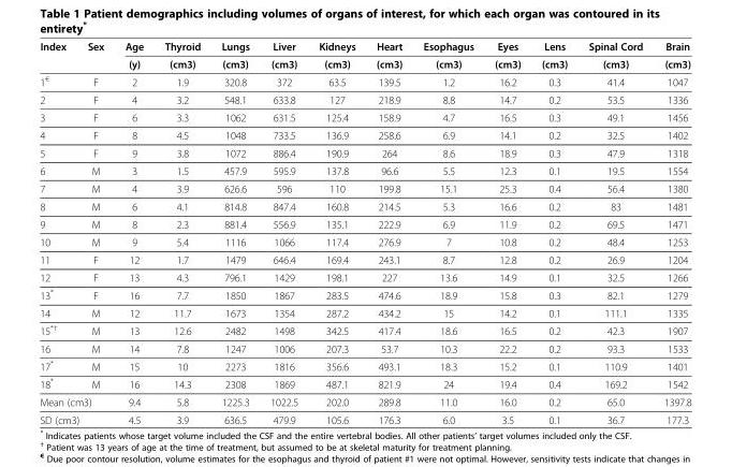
<table><thead><tr><td rowspan="2">Index</td><td rowspan="2">Sex</td><td rowspan="2">Age (y)</td><td rowspan="2">Thyroid (cm3)</td><td rowspan="2">Lungs (cm3)</td><td rowspan="2">Liver (cm3)</td><td rowspan="2">Kidneys (cm3)</td><td rowspan="2">Heart (cm3)</td><td rowspan="2">Esophagus (cm3)</td><td rowspan="2">Eyes (cm3)</td><td rowspan="2">Lens (cm3)</td><td rowspan="2">Spinal Cord (cm3)</td><td rowspan="2">Brain (cm3)</td></tr><tr></tr></thead><tbody><tr><td>1<sup>€</sup></td><td>F</td><td>2</td><td>1.9</td><td>320.8</td><td>372</td><td>63.5</td><td>139.5</td><td>1.2</td><td>16.2</td><td>0.3</td><td>41.4</td><td>1047</td></tr><tr><td>2</td><td>F</td><td>4</td><td>3.2</td><td>548.1</td><td>633.8</td><td>127</td><td>218.9</td><td>8.8</td><td>14.7</td><td>0.2</td><td>53.5</td><td>1336</td></tr><tr><td>3</td><td>F</td><td>6</td><td>3.3</td><td>1062</td><td>631.5</td><td>125.4</td><td>158.9</td><td>4.7</td><td>16.5</td><td>0.3</td><td>49.1</td><td>1456</td></tr><tr><td>4</td><td>F</td><td>8</td><td>4.5</td><td>1048</td><td>733.5</td><td>136.9</td><td>258.6</td><td>6.9</td><td>14.1</td><td>0.2</td><td>32.5</td><td>1402</td></tr><tr><td>5</td><td>F</td><td>9</td><td>3.8</td><td>1072</td><td>886.4</td><td>190.9</td><td>264</td><td>8.6</td><td>18.9</td><td>0.3</td><td>47.9</td><td>1318</td></tr><tr><td>6</td><td>M</td><td>3</td><td>1.5</td><td>457.9</td><td>595.9</td><td>137.8</td><td>96.6</td><td>5.5</td><td>12.3</td><td>0.1</td><td>19.5</td><td>1554</td></tr><tr><td>7</td><td>M</td><td>4</td><td>3.9</td><td>626.6</td><td>596</td><td>110</td><td>199.8</td><td>15.1</td><td>25.3</td><td>0.4</td><td>56.4</td><td>1380</td></tr><tr><td>8</td><td>M</td><td>6</td><td>4.1</td><td>814.8</td><td>847.4</td><td>160.8</td><td>214.5</td><td>5.3</td><td>16.6</td><td>0.2</td><td>83</td><td>1481</td></tr><tr><td>9</td><td>M</td><td>8</td><td>2.3</td><td>881.4</td><td>556.9</td><td>135.1</td><td>222.9</td><td>6.9</td><td>11.9</td><td>0.2</td><td>69.5</td><td>1471</td></tr><tr><td>10</td><td>M</td><td>9</td><td>5.4</td><td>1116</td><td>1066</td><td>117.4</td><td>276.9</td><td>7</td><td>10.8</td><td>0.2</td><td>48.4</td><td>1253</td></tr><tr><td>11</td><td>F</td><td>12</td><td>1.7</td><td>1479</td><td>646.4</td><td>169.4</td><td>243.1</td><td>8.7</td><td>12.8</td><td>0.2</td><td>26.9</td><td>1204</td></tr><tr><td>12</td><td>F</td><td>13</td><td>4.3</td><td>796.1</td><td>1429</td><td>198.1</td><td>227</td><td>13.6</td><td>14.9</td><td>0.1</td><td>32.5</td><td>1266</td></tr><tr><td>13*</td><td>F</td><td>16</td><td>7.7</td><td>1850</td><td>1867</td><td>283.5</td><td>474.6</td><td>18.9</td><td>15.8</td><td>0.3</td><td>82.1</td><td>1279</td></tr><tr><td>14</td><td>M</td><td>12</td><td>11.7</td><td>1673</td><td>1354</td><td>287.2</td><td>434.2</td><td>15</td><td>14.2</td><td>0.1</td><td>111.1</td><td>1335</td></tr><tr><td>15<sup>*†</sup></td><td>M</td><td>13</td><td>12.6</td><td>2482</td><td>1498</td><td>342.5</td><td>417.4</td><td>18.6</td><td>16.5</td><td>0.2</td><td>42.3</td><td>1907</td></tr><tr><td>16</td><td>M</td><td>14</td><td>7.8</td><td>1247</td><td>1006</td><td>207.3</td><td>53.7</td><td>10.3</td><td>22.2</td><td>0.2</td><td>93.3</td><td>1533</td></tr><tr><td>17*</td><td>M</td><td>15</td><td>10</td><td>2273</td><td>1816</td><td>356.6</td><td>493.1</td><td>18.3</td><td>15.2</td><td>0.1</td><td>110.9</td><td>1401</td></tr><tr><td>18*</td><td>M</td><td>16</td><td>14.3</td><td>2308</td><td>1869</td><td>487.1</td><td>821.9</td><td>24</td><td>19.4</td><td>0.4</td><td>169.2</td><td>1542</td></tr><tr><td colspan="2">Mean (cm3)</td><td>9.4</td><td>5.8</td><td>1225.3</td><td>1022.5</td><td>202.0</td><td>289.8</td><td>11.0</td><td>16.0</td><td>0.2</td><td>65.0</td><td>1397.8</td></tr><tr><td colspan="2">SD (cm3)</td><td>4.5</td><td>3.9</td><td>636.5</td><td>479.9</td><td>105.6</td><td>176.3</td><td>6.0</td><td>3.5</td><td>0.1</td><td>36.7</td><td>177.3</td></tr></tbody></table>